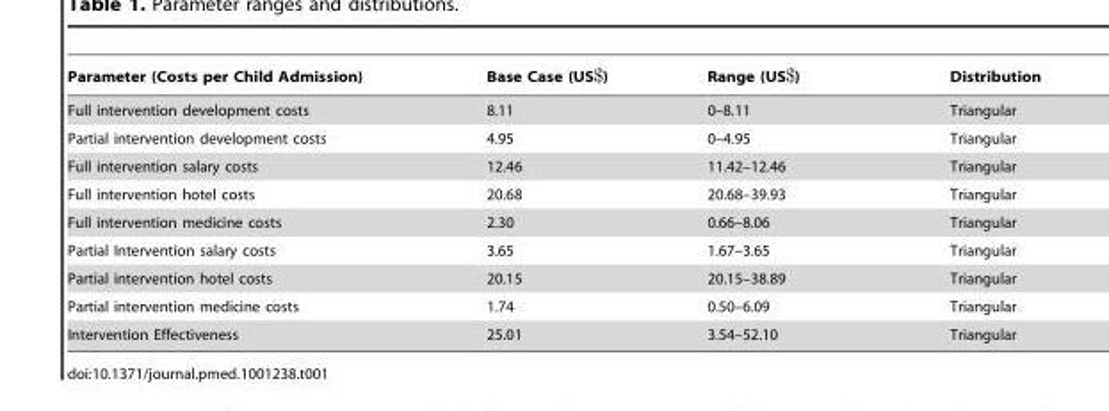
<table><thead><tr><td>Parameter (Costs per Child Admission)</td><td>Base Case (US$)</td><td>Range (US$)</td><td>Distribution</td></tr></thead><tbody><tr><td>Full intervention development costs</td><td>8.11</td><td>0–8.11</td><td>Triangular</td></tr><tr><td>Partial intervention development costs</td><td>4.95</td><td>0–4.95</td><td>Triangular</td></tr><tr><td>Full intervention salary costs</td><td>12.46</td><td>11.42–12.46</td><td>Triangular</td></tr><tr><td>Full intervention hotel costs</td><td>20.68</td><td>20.68–39.93</td><td>Triangular</td></tr><tr><td>Full intervention medicine costs</td><td>2.30</td><td>0.66–8.06</td><td>Triangular</td></tr><tr><td>Partial Intervention salary costs</td><td>3.65</td><td>1.67–3.65</td><td>Triangular</td></tr><tr><td>Partial intervention hotel costs</td><td>20.15</td><td>20.15–38.89</td><td>Triangular</td></tr><tr><td>Partial intervention medicine costs</td><td>1.74</td><td>0.50–6.09</td><td>Triangular</td></tr><tr><td>Intervention Effectiveness</td><td>25.01</td><td>3.54–52.10</td><td>Triangular</td></tr></tbody></table>